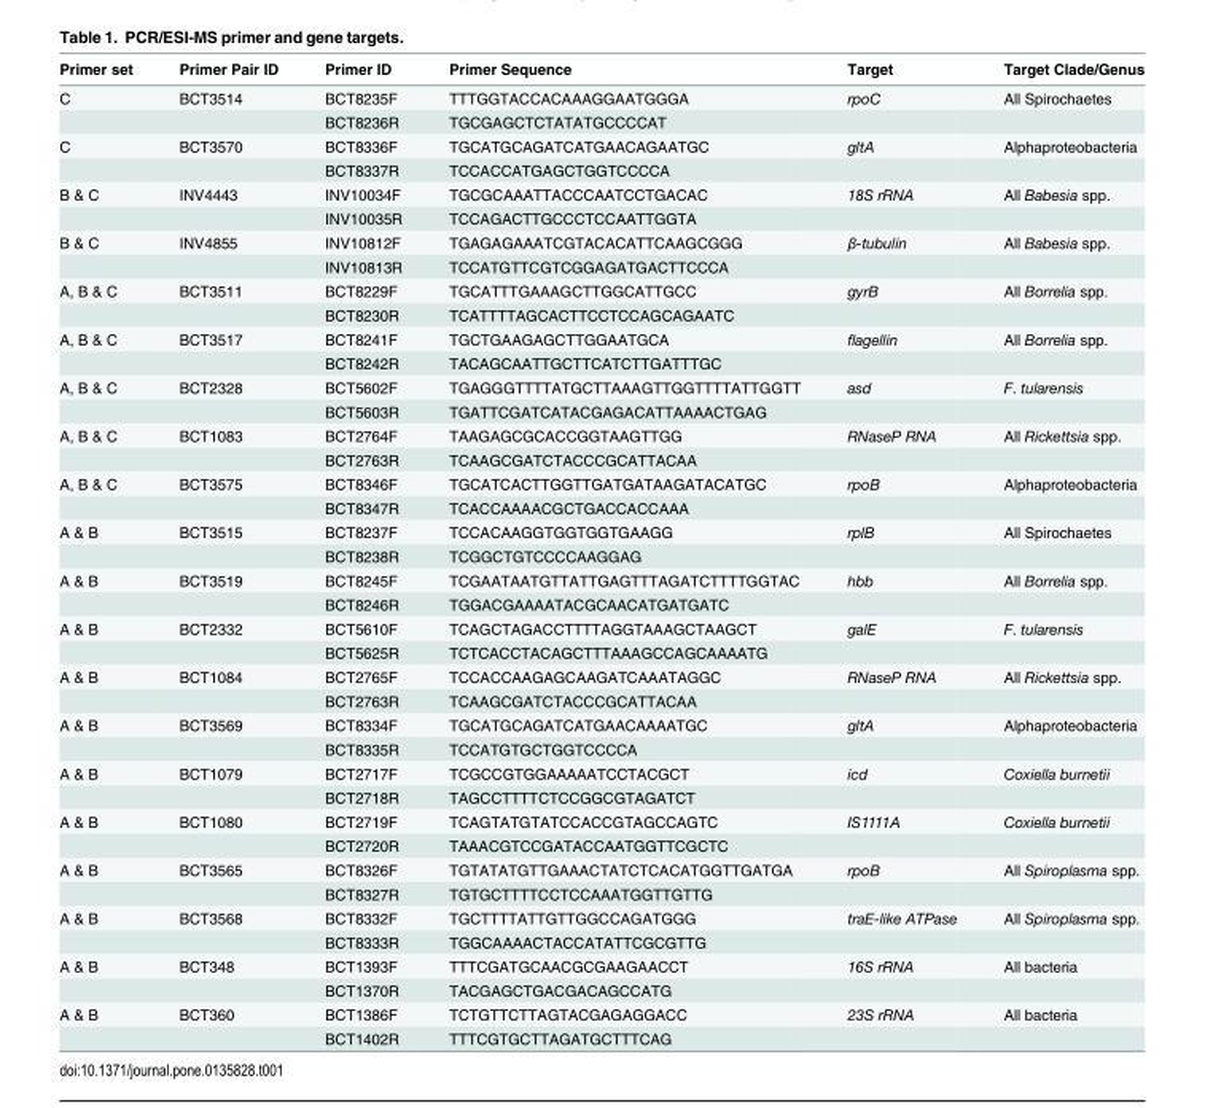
<table><thead><tr><td>Primer set</td><td>Primer Pair ID</td><td>Primer ID</td><td>Primer Sequence</td><td>Target</td><td>Target Clade/Genus</td></tr></thead><tbody><tr><td rowspan="2">C</td><td>BCT3514</td><td>BCT8235F</td><td>TTTGGTACCACAAAGGAATGGGA</td><td>rpoC</td><td>All Spirochaetes</td></tr><tr><td></td><td>BCT8236R</td><td>TGCGAGCTCTATATGCCCCAT</td><td></td><td></td></tr><tr><td rowspan="2">C</td><td>BCT3570</td><td>BCT8336F</td><td>TGCATGCAGATCATGAACAGAATGC</td><td>gltA</td><td>Alphaproteobacteria</td></tr><tr><td></td><td>BCT8337R</td><td>TCCACCATGAGCTGGTCCCCA</td><td></td><td></td></tr><tr><td rowspan="2">B &amp; C</td><td>INV4443</td><td>INV10034F</td><td>TGCGCAAATTACCCAATCCTGACAC</td><td>18S rRNA</td><td>All Babesia spp.</td></tr><tr><td></td><td>INV10035R</td><td>TCCAGACTTGCCCTCCAATTGGTA</td><td></td><td></td></tr><tr><td rowspan="2">B &amp; C</td><td>INV4855</td><td>INV10812F</td><td>TGAGAGAAATCGTACACATTCAAGCGGG</td><td>β-tubulin</td><td>All Babesia spp.</td></tr><tr><td></td><td>INV10813R</td><td>TCCATGTTCGTCGGAGATGACTTCCCA</td><td></td><td></td></tr><tr><td rowspan="2">A, B &amp; C</td><td>BCT3511</td><td>BCT8229F</td><td>TGCATTTGAAAGCTTGGCATTGCC</td><td>gyrB</td><td>All Borrelia spp.</td></tr><tr><td></td><td>BCT8230R</td><td>TCATTTTAGCACTTCCTCCAGCAGAATC</td><td></td><td></td></tr><tr><td rowspan="2">A, B &amp; C</td><td>BCT3517</td><td>BCT8241F</td><td>TGCTGAAGAGCTTGGAATGCA</td><td>flagellin</td><td>All Borrelia spp.</td></tr><tr><td></td><td>BCT8242R</td><td>TACAGCAATTGCTTCATCTTGATTTGC</td><td></td><td></td></tr><tr><td rowspan="2">A, B &amp; C</td><td>BCT2328</td><td>BCT5602F</td><td>TGAGGGTTTTATGCTTAAAGTTGGTTTTATTGGTT</td><td>asd</td><td>F. tularensis</td></tr><tr><td></td><td>BCT5603R</td><td>TGATTCGATCATACGAGACATTAAAACTGAG</td><td></td><td></td></tr><tr><td rowspan="2">A, B &amp; C</td><td>BCT1083</td><td>BCT2764F</td><td>TAAGAGCGCACCGGTAAGTTGG</td><td>RNaseP RNA</td><td>All Rickettsia spp.</td></tr><tr><td></td><td>BCT2763R</td><td>TCAAGCGATCTACCCGCATTACAA</td><td></td><td></td></tr><tr><td rowspan="2">A, B &amp; C</td><td>BCT3575</td><td>BCT8346F</td><td>TGCATCACTTGGTTGATGATAAGATACATGC</td><td>rpoB</td><td>Alphaproteobacteria</td></tr><tr><td></td><td>BCT8347R</td><td>TCACCAAAACGCTGACCACCAAA</td><td></td><td></td></tr><tr><td rowspan="2">A &amp; B</td><td>BCT3515</td><td>BCT8237F</td><td>TCCACAAGGTGGTGGTGAAGG</td><td>rplB</td><td>All Spirochaetes</td></tr><tr><td></td><td>BCT8238R</td><td>TCGGCTGTCCCCAAGGAG</td><td></td><td></td></tr><tr><td rowspan="2">A &amp; B</td><td>BCT3519</td><td>BCT8245F</td><td>TCGAATAATGTTATTGAGTTTAGATCTTTTGGTAC</td><td>hbb</td><td>All Borrelia spp.</td></tr><tr><td></td><td>BCT8246R</td><td>TGGACGAAAATACGCAACATGATGATC</td><td></td><td></td></tr><tr><td rowspan="2">A &amp; B</td><td>BCT2332</td><td>BCT5610F</td><td>TCAGCTAGACCTTTTAGGTAAAGCTAAGCT</td><td>galE</td><td>F. tularensis</td></tr><tr><td></td><td>BCT5625R</td><td>TCTCACCTACAGCTTTAAAGCCAGCAAAATG</td><td></td><td></td></tr><tr><td rowspan="2">A &amp; B</td><td>BCT1084</td><td>BCT2765F</td><td>TCCACCAAGAGCAAGATCAAATAGGC</td><td>RNaseP RNA</td><td>All Rickettsia spp.</td></tr><tr><td></td><td>BCT2763R</td><td>TCAAGCGATCTACCCGCATTACAA</td><td></td><td></td></tr><tr><td rowspan="2">A &amp; B</td><td>BCT3569</td><td>BCT8334F</td><td>TGCATGCAGATCATGAACAAAATGC</td><td>gltA</td><td>Alphaproteobacteria</td></tr><tr><td></td><td>BCT8335R</td><td>TCCATGTGCTGGTCCCCA</td><td></td><td></td></tr><tr><td rowspan="2">A &amp; B</td><td>BCT1079</td><td>BCT2717F</td><td>TCGCCGTGGAAAAATCCTACGCT</td><td>icd</td><td>Coxiella burnetii</td></tr><tr><td></td><td>BCT2718R</td><td>TAGCCTTTTCTCCGGCGTAGATCT</td><td></td><td></td></tr><tr><td rowspan="2">A &amp; B</td><td>BCT1080</td><td>BCT2719F</td><td>TCAGTATGTATCCACCGTAGCCAGTC</td><td>IS1111A</td><td>Coxiella burnetii</td></tr><tr><td></td><td>BCT2720R</td><td>TAAACGTCCGATACCAATGGTTCGCTC</td><td></td><td></td></tr><tr><td rowspan="2">A &amp; B</td><td>BCT3565</td><td>BCT8326F</td><td>TGTATATGTTGAAACTATCTCACATGGTTGATGA</td><td>rpoB</td><td>All Spiroplasma spp.</td></tr><tr><td></td><td>BCT8327R</td><td>TGTGCTTTTCCTCCAAATGGTTGTTG</td><td></td><td></td></tr><tr><td rowspan="2">A &amp; B</td><td>BCT3568</td><td>BCT8332F</td><td>TGCTTTTATTGTTGGCCAGATGGG</td><td>traE-like ATPase</td><td>All Spiroplasma spp.</td></tr><tr><td></td><td>BCT8333R</td><td>TGGCAAAACTACCATATTCGCGTTG</td><td></td><td></td></tr><tr><td rowspan="2">A &amp; B</td><td>BCT348</td><td>BCT1393F</td><td>TTTCGATGCAACGCGAAGAACCT</td><td>16S rRNA</td><td>All bacteria</td></tr><tr><td></td><td>BCT1370R</td><td>TACGAGCTGACGACAGCCATG</td><td></td><td></td></tr><tr><td rowspan="2">A &amp; B</td><td>BCT360</td><td>BCT1386F</td><td>TCTGTTCTTAGTACGAGAGGACC</td><td>23S rRNA</td><td>All bacteria</td></tr><tr><td></td><td>BCT1402R</td><td>TTTCGTGCTTAGATGCTTTCAG</td><td></td><td></td></tr></tbody></table>